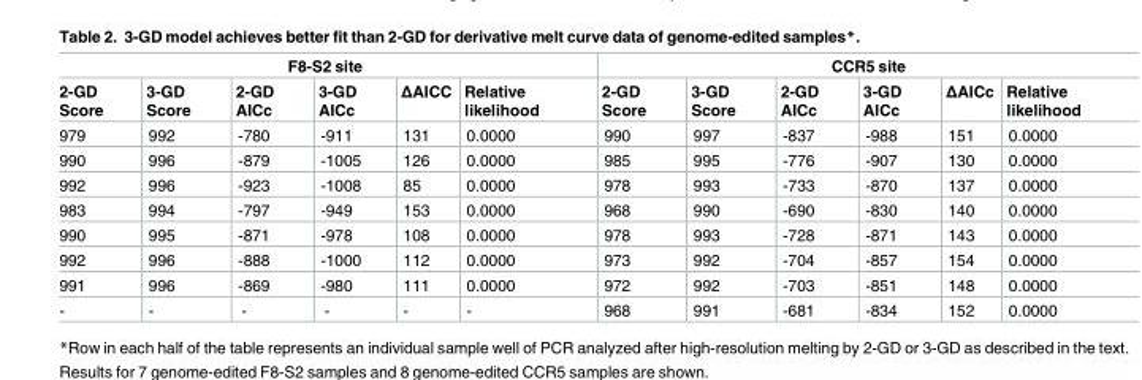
<table><thead><tr><td colspan="6">F8-S2 site</td><td colspan="6">CCR5 site</td></tr><tr><td>2-GD Score</td><td>3-GD Score</td><td>2-GD AICc</td><td>3-GD AICc</td><td>ΔAICC</td><td>Relative likelihood</td><td>2-GD Score</td><td>3-GD Score</td><td>2-GD AICc</td><td>3-GD AICc</td><td>ΔAICc</td><td>Relative likelihood</td></tr></thead><tbody><tr><td>979</td><td>992</td><td>-780</td><td>-911</td><td>131</td><td>0.0000</td><td>990</td><td>997</td><td>-837</td><td>-988</td><td>151</td><td>0.0000</td></tr><tr><td>990</td><td>996</td><td>-879</td><td>-1005</td><td>126</td><td>0.0000</td><td>985</td><td>995</td><td>-776</td><td>-907</td><td>130</td><td>0.0000</td></tr><tr><td>992</td><td>996</td><td>-923</td><td>-1008</td><td>85</td><td>0.0000</td><td>978</td><td>993</td><td>-733</td><td>-870</td><td>137</td><td>0.0000</td></tr><tr><td>983</td><td>994</td><td>-797</td><td>-949</td><td>153</td><td>0.0000</td><td>968</td><td>990</td><td>-690</td><td>-830</td><td>140</td><td>0.0000</td></tr><tr><td>990</td><td>995</td><td>-871</td><td>-978</td><td>108</td><td>0.0000</td><td>978</td><td>993</td><td>-728</td><td>-871</td><td>143</td><td>0.0000</td></tr><tr><td>992</td><td>996</td><td>-888</td><td>-1000</td><td>112</td><td>0.0000</td><td>973</td><td>992</td><td>-704</td><td>-857</td><td>154</td><td>0.0000</td></tr><tr><td>991</td><td>996</td><td>-869</td><td>-980</td><td>111</td><td>0.0000</td><td>972</td><td>992</td><td>-703</td><td>-851</td><td>148</td><td>0.0000</td></tr><tr><td>-</td><td>-</td><td>-</td><td>-</td><td>-</td><td>-</td><td>968</td><td>991</td><td>-681</td><td>-834</td><td>152</td><td>0.0000</td></tr></tbody></table>